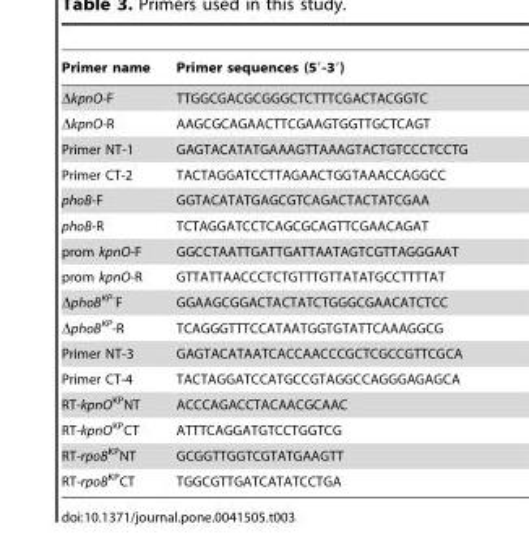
<table><thead><tr><td>Primer name</td><td>Primer sequences (5′-3′)</td></tr></thead><tbody><tr><td>ΔkpnO-F</td><td>TTGGCGACGCGGGCTCTTTCGACTACGGTC</td></tr><tr><td>ΔkpnO-R</td><td>AAGCGCAGAACTTCGAAGTGGTTGCTCAGT</td></tr><tr><td>Primer NT-1</td><td>GAGTACATATGAAAGTTAAAGTACTGTCCCTCCTG</td></tr><tr><td>Primer CT-2</td><td>TACTAGGATCCTTAGAACTGGTAAACCAGGCC</td></tr><tr><td>phoB-F</td><td>GGTACATATGAGCGTCAGACTACTATCGAA</td></tr><tr><td>phoB-R</td><td>TCTAGGATCCTCAGCGCAGTTCGAACAGAT</td></tr><tr><td>prom kpnO-F</td><td>GGCCTAATTGATTGATTAATAGTCGTTAGGGAAT</td></tr><tr><td>prom kpnO-R</td><td>GTTATTAACCCTCTGTTTGTTATATGCCTTTTAT</td></tr><tr><td>ΔphoB<sup>KP-</sup>F</td><td>GGAAGCGGACTACTATCTGGGCGAACATCTCC</td></tr><tr><td>ΔphoB<sup>KP</sup>-R</td><td>TCAGGGTTTCCATAATGGTGTATTCAAAGGCG</td></tr><tr><td>Primer NT-3</td><td>GAGTACATAATCACCAACCCGCTCGCCGTTCGCA</td></tr><tr><td>Primer CT-4</td><td>TACTAGGATCCATGCCGTAGGCCAGGGAGAGCA</td></tr><tr><td>RT-kpnO<sup>KP</sup>NT</td><td>ACCCAGACCTACAACGCAAC</td></tr><tr><td>RT-kpnO<sup>KP</sup>CT</td><td>ATTTCAGGATGTCCTGGTCG</td></tr><tr><td>RT-rpoB<sup>KP</sup>NT</td><td>GCGGTTGGTCGTATGAAGTT</td></tr><tr><td>RT-rpoB<sup>KP</sup>CT</td><td>TGGCGTTGATCATATCCTGA</td></tr></tbody></table>